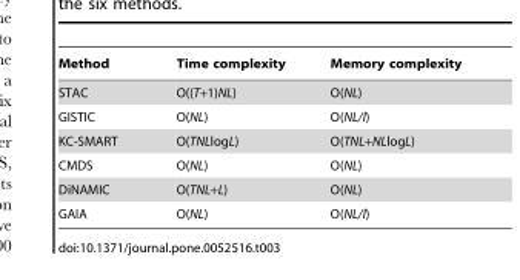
<table><thead><tr><td>Method</td><td>Time complexity</td><td>Memory complexity</td></tr></thead><tbody><tr><td>STAC</td><td>O((T+1)NL)</td><td>O(NL)</td></tr><tr><td>GISTIC</td><td>O(NL)</td><td>O(NL/l)</td></tr><tr><td>KC-SMART</td><td>O(TNLlogL)</td><td>O(TNL+NLlogL)</td></tr><tr><td>CMDS</td><td>O(NL)</td><td>O(NL)</td></tr><tr><td>DiNAMIC</td><td>O(TNL+L)</td><td>O(NL)</td></tr><tr><td>GAIA</td><td>O(NL)</td><td>O(NL/l)</td></tr></tbody></table>